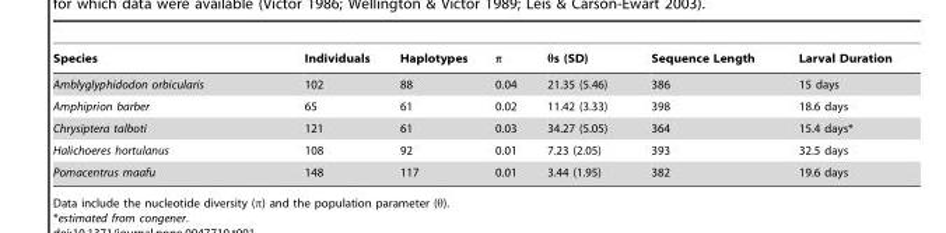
<table><thead><tr><td>Species</td><td>Individuals</td><td>Haplotypes</td><td>π</td><td>θs (SD)</td><td>Sequence Length</td><td>Larval Duration</td></tr></thead><tbody><tr><td>Amblyglyphidodon orbicularis</td><td>102</td><td>88</td><td>0.04</td><td>21.35 (5.46)</td><td>386</td><td>15 days</td></tr><tr><td>Amphiprion barber</td><td>65</td><td>61</td><td>0.02</td><td>11.42 (3.33)</td><td>398</td><td>18.6 days</td></tr><tr><td>Chrysiptera talboti</td><td>121</td><td>61</td><td>0.03</td><td>34.27 (5.05)</td><td>364</td><td>15.4 days*</td></tr><tr><td>Halichoeres hortulanus</td><td>108</td><td>92</td><td>0.01</td><td>7.23 (2.05)</td><td>393</td><td>32.5 days</td></tr><tr><td>Pomacentrus maafu</td><td>148</td><td>117</td><td>0.01</td><td>3.44 (1.95)</td><td>382</td><td>19.6 days</td></tr></tbody></table>